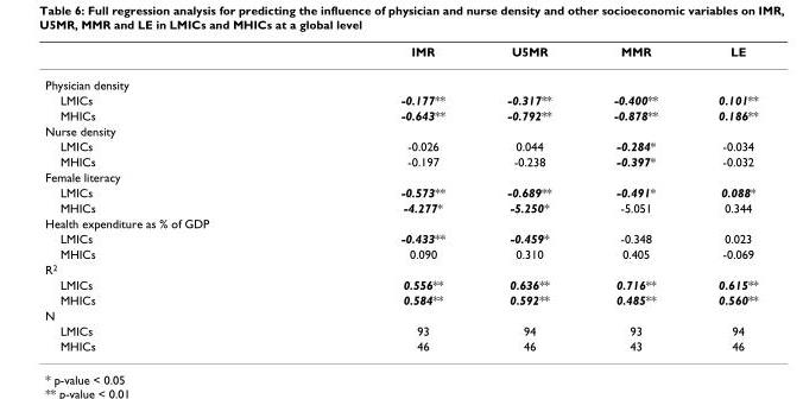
<table><thead><tr><td></td><td>IMR</td><td>U5MR</td><td>MMR</td><td>LE</td></tr></thead><tbody><tr><td colspan="5">Physician density</td></tr><tr><td>LMICs</td><td>-0.177**</td><td>-0.317**</td><td>-0.400**</td><td>0.101**</td></tr><tr><td>MHICs</td><td>-0.643**</td><td>-0.792**</td><td>-0.878**</td><td>0.186**</td></tr><tr><td colspan="5">Nurse density</td></tr><tr><td>LMICs</td><td>-0.026</td><td>0.044</td><td>-0.284*</td><td>-0.034</td></tr><tr><td>MHICs</td><td>-0.197</td><td>-0.238</td><td>-0.397*</td><td>-0.032</td></tr><tr><td colspan="5">Female literacy</td></tr><tr><td>LMICs</td><td>-0.573**</td><td>-0.689**</td><td>-0.491*</td><td>0.088*</td></tr><tr><td>MHICs</td><td>-4.277*</td><td>-5.250*</td><td>-5.051</td><td>0.344</td></tr><tr><td colspan="5">Health expenditure as % of GDP</td></tr><tr><td>LMICs</td><td>-0.433**</td><td>-0.459*</td><td>-0.348</td><td>0.023</td></tr><tr><td>MHICs</td><td>0.090</td><td>0.310</td><td>0.405</td><td>-0.069</td></tr><tr><td colspan="5">R<sup>2</sup></td></tr><tr><td>LMICs</td><td>0.556**</td><td>0.636**</td><td>0.716**</td><td>0.615**</td></tr><tr><td>MHICs</td><td>0.584**</td><td>0.592**</td><td>0.485**</td><td>0.560**</td></tr><tr><td colspan="5">N</td></tr><tr><td>LMICs</td><td>93</td><td>94</td><td>93</td><td>94</td></tr><tr><td>MHICs</td><td>46</td><td>46</td><td>43</td><td>46</td></tr></tbody></table>